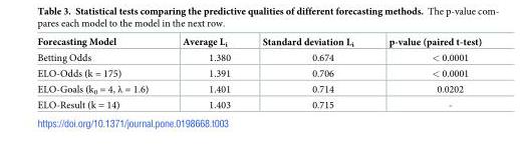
<table><thead><tr><td>Forecasting Model</td><td>Average L<sub>i</sub></td><td>Standard deviation L<sub>i</sub></td><td>p-value (paired t-test)</td></tr></thead><tbody><tr><td>Betting Odds</td><td>1.380</td><td>0.674</td><td>&lt; 0.0001</td></tr><tr><td>ELO-Odds (k = 175)</td><td>1.391</td><td>0.706</td><td>&lt; 0.0001</td></tr><tr><td>ELO-Goals (k<sub>0</sub> = 4, λ = 1.6)</td><td>1.401</td><td>0.714</td><td>0.0202</td></tr><tr><td>ELO-Result (k = 14)</td><td>1.403</td><td>0.715</td><td>-</td></tr></tbody></table>